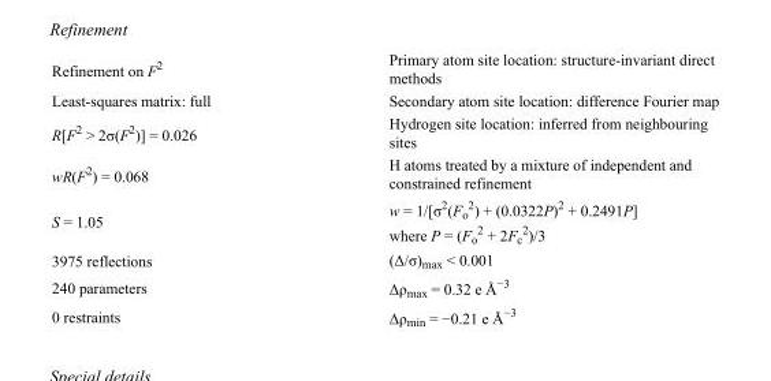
<table><tbody><tr><td>Refinement on F<sup>2</sup></td><td>Primary atom site location: structure-invariant direct methods</td></tr><tr><td>Least-squares matrix: full</td><td>Secondary atom site location: difference Fourier map</td></tr><tr><td>R[F<sup>2</sup> &gt; 2σ(F<sup>2</sup>)] = 0.026</td><td>Hydrogen site location: inferred from neighbouring sites</td></tr><tr><td>wR(F<sup>2</sup>) = 0.068</td><td>H atoms treated by a mixture of independent and constrained refinement</td></tr><tr><td>S = 1.05</td><td>w = 1/[σ<sup>2</sup>(F<sub>o</sub> <sup>2</sup>) + (0.0322P)<sup>2</sup> + 0.2491P] where P = (F<sub>o</sub> <sup>2</sup> + 2F<sub>c</sub> <sup>2</sup>)/3</td></tr><tr><td>3975 reflections</td><td>(Δ/σ)<sub>max</sub> &lt; 0.001</td></tr><tr><td>240 parameters</td><td>Δρ<sub>max</sub> = 0.32 e Å<sup>−3</sup></td></tr><tr><td>0 restraints</td><td>Δρ<sub>min</sub> = −0.21 e Å<sup>−3</sup></td></tr></tbody></table>